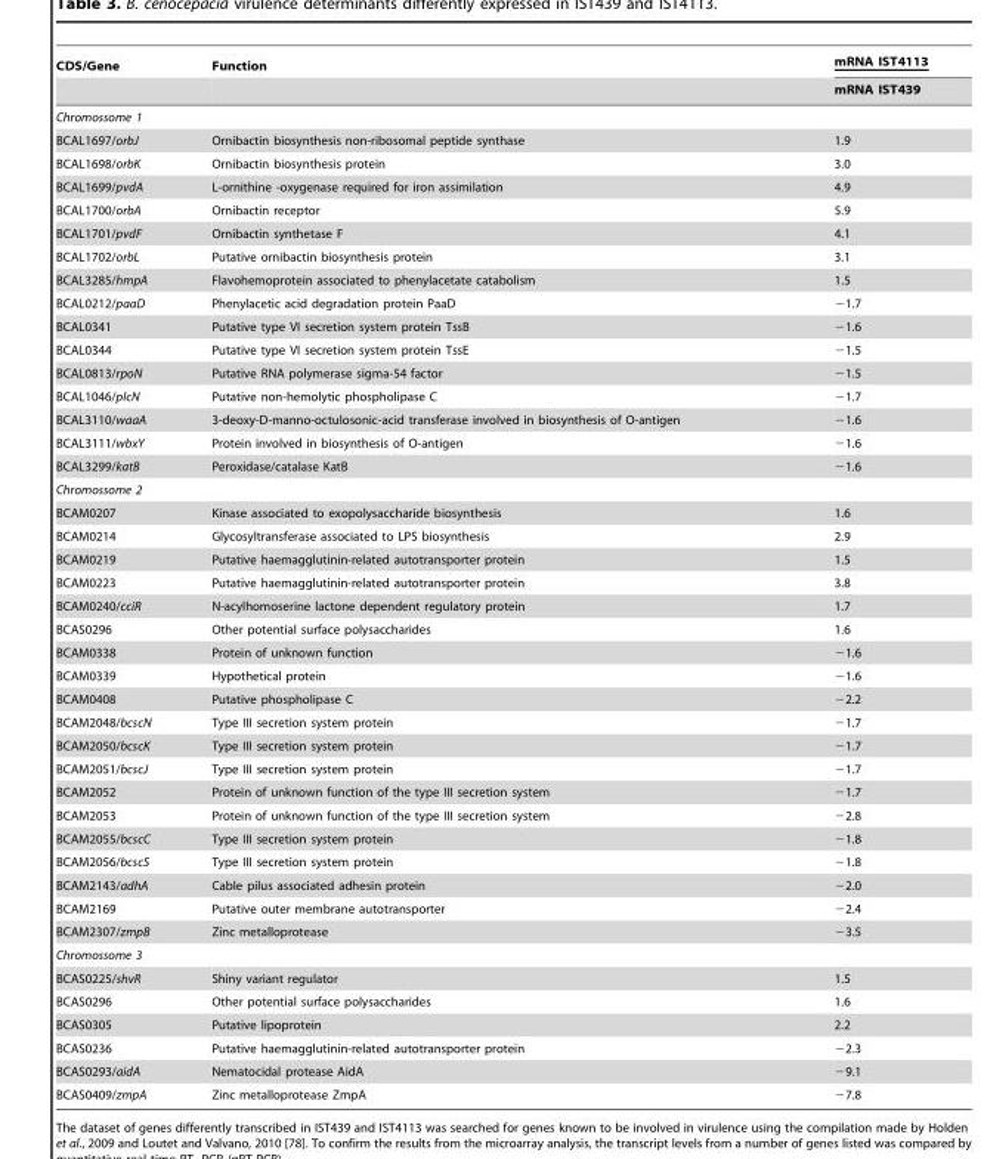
<table><thead><tr><td rowspan="2">CDS/Gene</td><td rowspan="2">Function</td><td rowspan="2">mRNA IST4113 mRNA IST439</td></tr><tr></tr></thead><tbody><tr><td colspan="3">Chromossome 1</td></tr><tr><td>BCAL1697/orbJ</td><td>Ornibactin biosynthesis non-ribosomal peptide synthase</td><td>1.9</td></tr><tr><td>BCAL1698/orbK</td><td>Ornibactin biosynthesis protein</td><td>3.0</td></tr><tr><td>BCAL1699/pvdA</td><td>L-ornithine -oxygenase required for iron assimilation</td><td>4.9</td></tr><tr><td>BCAL1700/orbA</td><td>Ornibactin receptor</td><td>5.9</td></tr><tr><td>BCAL1701/pvdF</td><td>Ornibactin synthetase F</td><td>4.1</td></tr><tr><td>BCAL1702/orbL</td><td>Putative ornibactin biosynthesis protein</td><td>3.1</td></tr><tr><td>BCAL3285/hmpA</td><td>Flavohemoprotein associated to phenylacetate catabolism</td><td>1.5</td></tr><tr><td>BCAL0212/paaD</td><td>Phenylacetic acid degradation protein PaaD</td><td>−1.7</td></tr><tr><td>BCAL0341</td><td>Putative type VI secretion system protein TssB</td><td>−1.6</td></tr><tr><td>BCAL0344</td><td>Putative type VI secretion system protein TssE</td><td>−1.5</td></tr><tr><td>BCAL0813/rpoN</td><td>Putative RNA polymerase sigma-54 factor</td><td>−1.5</td></tr><tr><td>BCAL1046/plcN</td><td>Putative non-hemolytic phospholipase C</td><td>−1.7</td></tr><tr><td>BCAL3110/waaA</td><td>3-deoxy-D-manno-octulosonic-acid transferase involved in biosynthesis of O-antigen</td><td>−1.6</td></tr><tr><td>BCAL3111/wbxY</td><td>Protein involved in biosynthesis of O-antigen</td><td>−1.6</td></tr><tr><td>BCAL3299/katB</td><td>Peroxidase/catalase KatB</td><td>−1.6</td></tr><tr><td colspan="3">Chromossome 2</td></tr><tr><td>BCAM0207</td><td>Kinase associated to exopolysaccharide biosynthesis</td><td>1.6</td></tr><tr><td>BCAM0214</td><td>Glycosyltransferase associated to LPS biosynthesis</td><td>2.9</td></tr><tr><td>BCAM0219</td><td>Putative haemagglutinin-related autotransporter protein</td><td>1.5</td></tr><tr><td>BCAM0223</td><td>Putative haemagglutinin-related autotransporter protein</td><td>3.8</td></tr><tr><td>BCAM0240/cciR</td><td>N-acylhomoserine lactone dependent regulatory protein</td><td>1.7</td></tr><tr><td>BCAS0296</td><td>Other potential surface polysaccharides</td><td>1.6</td></tr><tr><td>BCAM0338</td><td>Protein of unknown function</td><td>−1.6</td></tr><tr><td>BCAM0339</td><td>Hypothetical protein</td><td>−1.6</td></tr><tr><td>BCAM0408</td><td>Putative phospholipase C</td><td>−2.2</td></tr><tr><td>BCAM2048/bcscN</td><td>Type III secretion system protein</td><td>−1.7</td></tr><tr><td>BCAM2050/bcscK</td><td>Type III secretion system protein</td><td>−1.7</td></tr><tr><td>BCAM2051/bcscJ</td><td>Type III secretion system protein</td><td>−1.7</td></tr><tr><td>BCAM2052</td><td>Protein of unknown function of the type III secretion system</td><td>−1.7</td></tr><tr><td>BCAM2053</td><td>Protein of unknown function of the type III secretion system</td><td>−2.8</td></tr><tr><td>BCAM2055/bcscC</td><td>Type III secretion system protein</td><td>−1.8</td></tr><tr><td>BCAM2056/bcscS</td><td>Type III secretion system protein</td><td>−1.8</td></tr><tr><td>BCAM2143/adhA</td><td>Cable pilus associated adhesin protein</td><td>−2.0</td></tr><tr><td>BCAM2169</td><td>Putative outer membrane autotransporter</td><td>−2.4</td></tr><tr><td>BCAM2307/zmpB</td><td>Zinc metalloprotease</td><td>−3.5</td></tr><tr><td colspan="3">Chromossome 3</td></tr><tr><td>BCAS0225/shvR</td><td>Shiny variant regulator</td><td>1.5</td></tr><tr><td>BCAS0296</td><td>Other potential surface polysaccharides</td><td>1.6</td></tr><tr><td>BCAS0305</td><td>Putative lipoprotein</td><td>2.2</td></tr><tr><td>BCAS0236</td><td>Putative haemagglutinin-related autotransporter protein</td><td>−2.3</td></tr><tr><td>BCAS0293/aidA</td><td>Nematocidal protease AidA</td><td>−9.1</td></tr><tr><td>BCAS0409/zmpA</td><td>Zinc metalloprotease ZmpA</td><td>−7.8</td></tr></tbody></table>